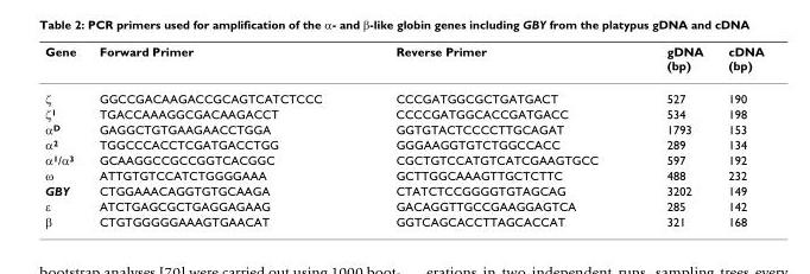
<table><thead><tr><td>Gene</td><td>Forward Primer</td><td>Reverse Primer</td><td>gDNA (bp)</td><td>cDNA (bp)</td></tr></thead><tbody><tr><td>ζ</td><td>GGCCGACAAGACCGCAGTCATCTCCC</td><td>CCCGATGGCGCTGATGACT</td><td>527</td><td>190</td></tr><tr><td>ζ<sup>1</sup></td><td>TGACCAAAGGCGACAAGACCT</td><td>CCCCGATGGCACCGATGACC</td><td>534</td><td>198</td></tr><tr><td>α<sup>D</sup></td><td>GAGGCTGTGAAGAACCTGGA</td><td>GGTGTACTCCCCTTGCAGAT</td><td>1793</td><td>153</td></tr><tr><td>α<sup>2</sup></td><td>TGGCCCACCTCGATGACCTGG</td><td>GGGAAGGTGTCTGGCCACC</td><td>289</td><td>134</td></tr><tr><td>α<sup>1</sup>/α<sup>3</sup></td><td>GCAAGGCCGCCGGTCACGGC</td><td>CGCTGTCCATGTCATCGAAGTGCC</td><td>597</td><td>192</td></tr><tr><td>ω</td><td>ATTGTGTCCATCTGGGGAAA</td><td>GCTTGGCAAAGTTGCTCTTC</td><td>488</td><td>232</td></tr><tr><td>GBY</td><td>CTGGAAACAGGTGTGCAAGA</td><td>CTATCTCCGGGGTGTAGCAG</td><td>3202</td><td>149</td></tr><tr><td>ε</td><td>ATCTGAGCGCTGAGGAGAAG</td><td>GACAGGTTGCCGAAGGAGTCA</td><td>285</td><td>142</td></tr><tr><td>β</td><td>CTGTGGGGGAAAGTGAACAT</td><td>GGTCAGCACCTTAGCACCAT</td><td>321</td><td>168</td></tr></tbody></table>